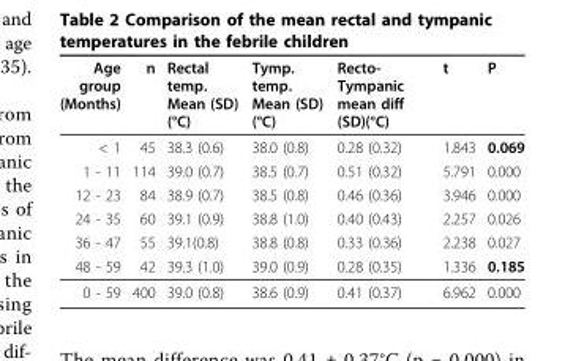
<table><thead><tr><td>Age group (Months)</td><td>n</td><td>Rectal temp. Mean (SD) (°C)</td><td>Tymp. temp. Mean (SD) (°C)</td><td>Recto- Tympanic mean diff (SD)(°C)</td><td>t</td><td>P</td></tr></thead><tbody><tr><td>&lt; 1</td><td>45</td><td>38.3 (0.6)</td><td>38.0 (0.8)</td><td>0.28 (0.32)</td><td>1.843</td><td>0.069</td></tr><tr><td>1 - 11</td><td>114</td><td>39.0 (0.7)</td><td>38.5 (0.7)</td><td>0.51 (0.32)</td><td>5.791</td><td>0.000</td></tr><tr><td>12 - 23</td><td>84</td><td>38.9 (0.7)</td><td>38.5 (0.8)</td><td>0.46 (0.36)</td><td>3.946</td><td>0.000</td></tr><tr><td>24 - 35</td><td>60</td><td>39.1 (0.9)</td><td>38.8 (1.0)</td><td>0.40 (0.43)</td><td>2.257</td><td>0.026</td></tr><tr><td>36 - 47</td><td>55</td><td>39.1(0.8)</td><td>38.8 (0.8)</td><td>0.33 (0.36)</td><td>2.238</td><td>0.027</td></tr><tr><td>48 - 59</td><td>42</td><td>39.3 (1.0)</td><td>39.0 (0.9)</td><td>0.28 (0.35)</td><td>1.336</td><td>0.185</td></tr><tr><td>0 - 59</td><td>400</td><td>39.0 (0.8)</td><td>38.6 (0.9)</td><td>0.41 (0.37)</td><td>6.962</td><td>0.000</td></tr></tbody></table>